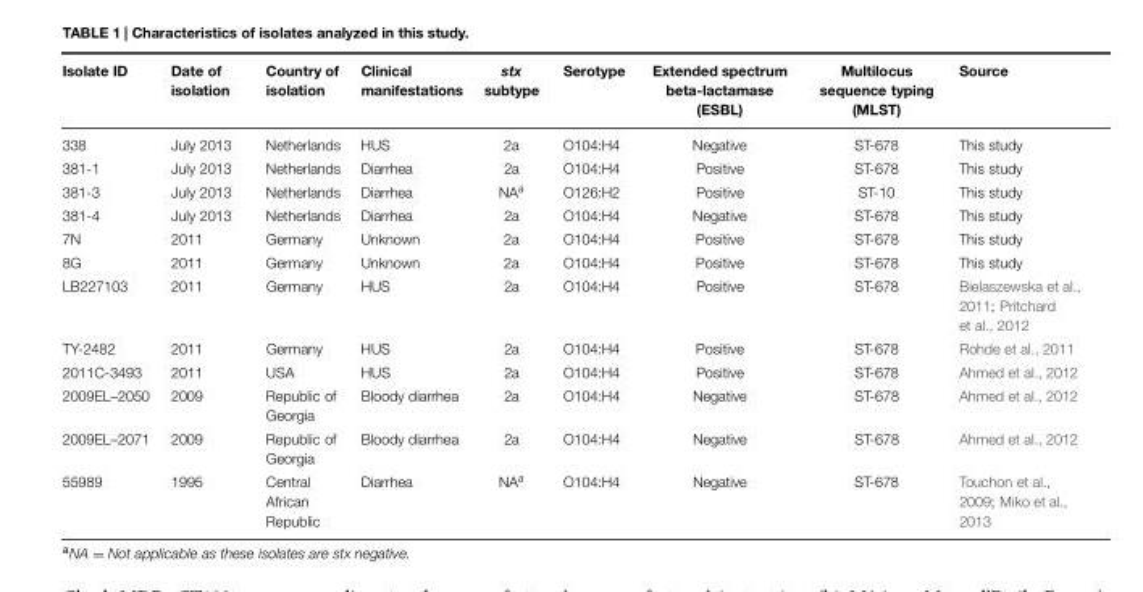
<table><thead><tr><td>Isolate ID</td><td>Date of isolation</td><td>Country of isolation</td><td>Clinical manifestations</td><td>stx subtype</td><td>Serotype</td><td>Extended spectrum beta-lactamase (ESBL)</td><td>Multilocus sequence typing (MLST)</td><td>Source</td></tr></thead><tbody><tr><td>338</td><td>July 2013</td><td>Netherlands</td><td>HUS</td><td>2a</td><td>O104:H4</td><td>Negative</td><td>ST-678</td><td>This study</td></tr><tr><td>381-1</td><td>July 2013</td><td>Netherlands</td><td>Diarrhea</td><td>2a</td><td>O104:H4</td><td>Positive</td><td>ST-678</td><td>This study</td></tr><tr><td>381-3</td><td>July 2013</td><td>Netherlands</td><td>Diarrhea</td><td>NA<sup>a</sup></td><td>O126:H2</td><td>Positive</td><td>ST-10</td><td>This study</td></tr><tr><td>381-4</td><td>July 2013</td><td>Netherlands</td><td>Diarrhea</td><td>2a</td><td>O104:H4</td><td>Negative</td><td>ST-678</td><td>This study</td></tr><tr><td>7N</td><td>2011</td><td>Germany</td><td>Unknown</td><td>2a</td><td>O104:H4</td><td>Positive</td><td>ST-678</td><td>This study</td></tr><tr><td>8G</td><td>2011</td><td>Germany</td><td>Unknown</td><td>2a</td><td>O104:H4</td><td>Positive</td><td>ST-678</td><td>This study</td></tr><tr><td>LB227103</td><td>2011</td><td>Germany</td><td>HUS</td><td>2a</td><td>O104:H4</td><td>Positive</td><td>ST-678</td><td>Bielaszewska et al., 2011; Pritchard et al., 2012</td></tr><tr><td>TY-2482</td><td>2011</td><td>Germany</td><td>HUS</td><td>2a</td><td>O104:H4</td><td>Positive</td><td>ST-678</td><td>Rohde et al., 2011</td></tr><tr><td>2011C-3493</td><td>2011</td><td>USA</td><td>HUS</td><td>2a</td><td>O104:H4</td><td>Positive</td><td>ST-678</td><td>Ahmed et al., 2012</td></tr><tr><td>2009EL–2050</td><td>2009</td><td>Republic of Georgia</td><td>Bloody diarrhea</td><td>2a</td><td>O104:H4</td><td>Negative</td><td>ST-678</td><td>Ahmed et al., 2012</td></tr><tr><td>2009EL–2071</td><td>2009</td><td>Republic of Georgia</td><td>Bloody diarrhea</td><td>2a</td><td>O104:H4</td><td>Negative</td><td>ST-678</td><td>Ahmed et al., 2012</td></tr><tr><td>55989</td><td>1995</td><td>Central African Republic</td><td>Diarrhea</td><td>NA<sup>a</sup></td><td>O104:H4</td><td>Negative</td><td>ST-678</td><td>Touchon et al., 2009; Miko et al., 2013</td></tr></tbody></table>